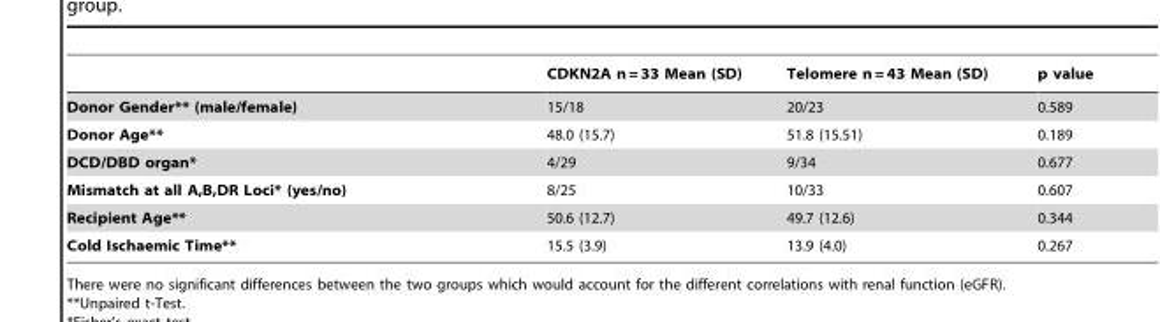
<table><thead><tr><td></td><td>CDKN2A n = 33 Mean (SD)</td><td>Telomere n = 43 Mean (SD)</td><td>p value</td></tr></thead><tbody><tr><td>Donor Gender** (male/female)</td><td>15/18</td><td>20/23</td><td>0.589</td></tr><tr><td>Donor Age**</td><td>48.0 (15.7)</td><td>51.8 (15.51)</td><td>0.189</td></tr><tr><td>DCD/DBD organ*</td><td>4/29</td><td>9/34</td><td>0.677</td></tr><tr><td>Mismatch at all A,B,DR Loci* (yes/no)</td><td>8/25</td><td>10/33</td><td>0.607</td></tr><tr><td>Recipient Age**</td><td>50.6 (12.7)</td><td>49.7 (12.6)</td><td>0.344</td></tr><tr><td>Cold Ischaemic Time**</td><td>15.5 (3.9)</td><td>13.9 (4.0)</td><td>0.267</td></tr></tbody></table>